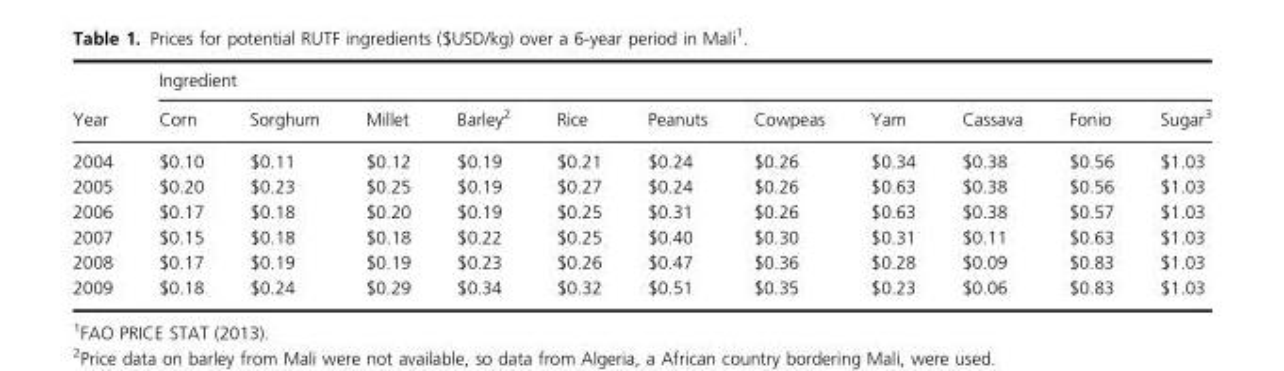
<table><thead><tr><td rowspan="2">Year</td><td colspan="11">Ingredient</td></tr><tr><td>Corn</td><td>Sorghum</td><td>Millet</td><td>Barley<sup>2</sup></td><td>Rice</td><td>Peanuts</td><td>Cowpeas</td><td>Yam</td><td>Cassava</td><td>Fonio</td><td>Sugar<sup>3</sup></td></tr></thead><tbody><tr><td>2004</td><td>$0.10</td><td>$0.11</td><td>$0.12</td><td>$0.19</td><td>$0.21</td><td>$0.24</td><td>$0.26</td><td>$0.34</td><td>$0.38</td><td>$0.56</td><td>$1.03</td></tr><tr><td>2005</td><td>$0.20</td><td>$0.23</td><td>$0.25</td><td>$0.19</td><td>$0.27</td><td>$0.24</td><td>$0.26</td><td>$0.63</td><td>$0.38</td><td>$0.56</td><td>$1.03</td></tr><tr><td>2006</td><td>$0.17</td><td>$0.18</td><td>$0.20</td><td>$0.19</td><td>$0.25</td><td>$0.31</td><td>$0.26</td><td>$0.63</td><td>$0.38</td><td>$0.57</td><td>$1.03</td></tr><tr><td>2007</td><td>$0.15</td><td>$0.18</td><td>$0.18</td><td>$0.22</td><td>$0.25</td><td>$0.40</td><td>$0.30</td><td>$0.31</td><td>$0.11</td><td>$0.63</td><td>$1.03</td></tr><tr><td>2008</td><td>$0.17</td><td>$0.19</td><td>$0.19</td><td>$0.23</td><td>$0.26</td><td>$0.47</td><td>$0.36</td><td>$0.28</td><td>$0.09</td><td>$0.83</td><td>$1.03</td></tr><tr><td>2009</td><td>$0.18</td><td>$0.24</td><td>$0.29</td><td>$0.34</td><td>$0.32</td><td>$0.51</td><td>$0.35</td><td>$0.23</td><td>$0.06</td><td>$0.83</td><td>$1.03</td></tr></tbody></table>